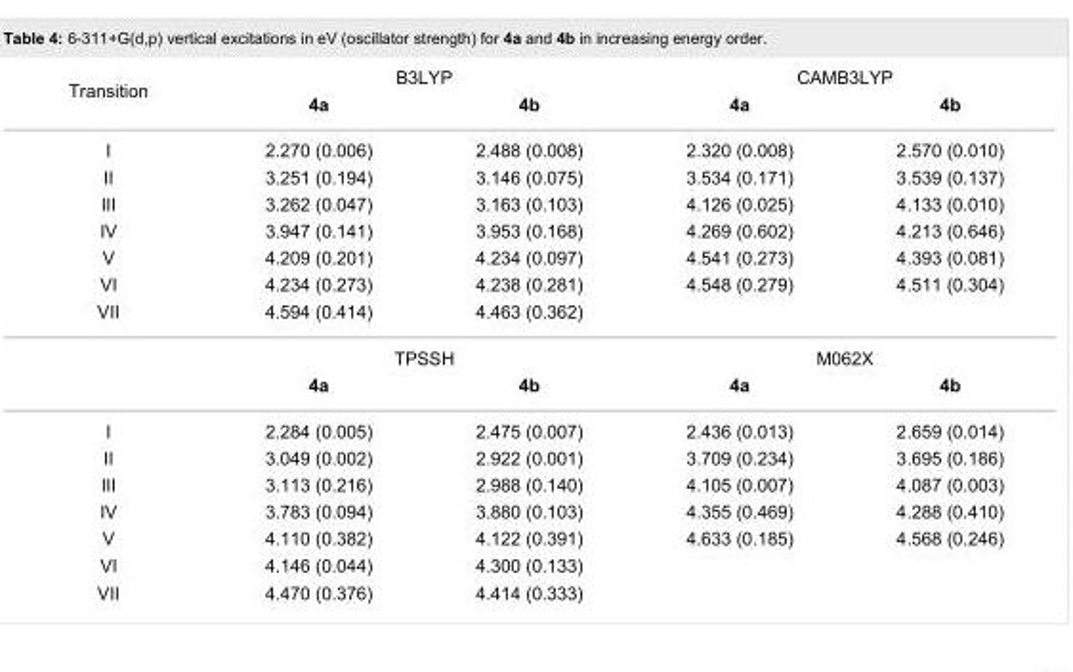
<table><tbody><tr><td rowspan="2">Transition</td><td colspan="2">B3LYP</td><td colspan="2">CAMB3LYP</td></tr><tr><td>4a</td><td>4b</td><td>4a</td><td>4b</td></tr><tr><td>I</td><td>2.270 (0.006)</td><td>2.488 (0.008)</td><td>2.320 (0.008)</td><td>2.570 (0.010)</td></tr><tr><td>II</td><td>3.251 (0.194)</td><td>3.146 (0.075)</td><td>3.534 (0.171)</td><td>3.539 (0.137)</td></tr><tr><td>III</td><td>3.262 (0.047)</td><td>3.163 (0.103)</td><td>4.126 (0.025)</td><td>4.133 (0.010)</td></tr><tr><td>IV</td><td>3.947 (0.141)</td><td>3.953 (0.168)</td><td>4.269 (0.602)</td><td>4.213 (0.646)</td></tr><tr><td>V</td><td>4.209 (0.201)</td><td>4.234 (0.097)</td><td>4.541 (0.273)</td><td>4.393 (0.081)</td></tr><tr><td>VI</td><td>4.234 (0.273)</td><td>4.238 (0.281)</td><td>4.548 (0.279)</td><td>4.511 (0.304)</td></tr><tr><td rowspan="3">VII</td><td>4.594 (0.414)</td><td>4.463 (0.362)</td><td></td><td></td></tr><tr><td colspan="2">TPSSH</td><td colspan="2">M062X</td></tr><tr><td>4a</td><td>4b</td><td>4a</td><td>4b</td></tr><tr><td>I</td><td>2.284 (0.005)</td><td>2.475 (0.007)</td><td>2.436 (0.013)</td><td>2.659 (0.014)</td></tr><tr><td>II</td><td>3.049 (0.002)</td><td>2.922 (0.001)</td><td>3.709 (0.234)</td><td>3.695 (0.186)</td></tr><tr><td>III</td><td>3.113 (0.216)</td><td>2.988 (0.140)</td><td>4.105 (0.007)</td><td>4.087 (0.003)</td></tr><tr><td>IV</td><td>3.783 (0.094)</td><td>3.880 (0.103)</td><td>4.355 (0.469)</td><td>4.288 (0.410)</td></tr><tr><td>V</td><td>4.110 (0.382)</td><td>4.122 (0.391)</td><td>4.633 (0.185)</td><td>4.568 (0.246)</td></tr><tr><td>VI</td><td>4.146 (0.044)</td><td>4.300 (0.133)</td><td></td><td></td></tr><tr><td>VII</td><td>4.470 (0.376)</td><td>4.414 (0.333)</td><td></td><td></td></tr></tbody></table>